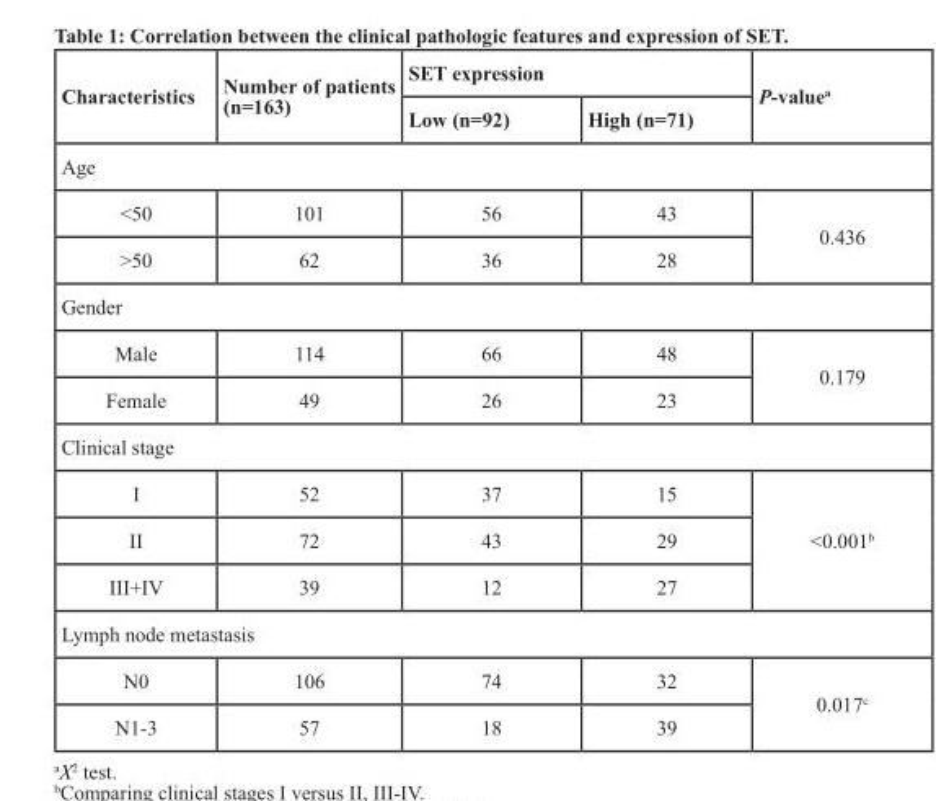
<table><thead><tr><td rowspan="2">Characteristics</td><td rowspan="2">Number of patients (n=163)</td><td colspan="2">SET expression</td><td rowspan="2">P-value<sup>a</sup></td></tr><tr><td>Low (n=92)</td><td>High (n=71)</td></tr></thead><tbody><tr><td colspan="5">Age</td></tr><tr><td>&lt;50</td><td>101</td><td>56</td><td>43</td><td rowspan="2">0.436</td></tr><tr><td>&gt;50</td><td>62</td><td>36</td><td>28</td></tr><tr><td colspan="5">Gender</td></tr><tr><td>Male</td><td>114</td><td>66</td><td>48</td><td rowspan="2">0.179</td></tr><tr><td>Female</td><td>49</td><td>26</td><td>23</td></tr><tr><td colspan="5">Clinical stage</td></tr><tr><td>I</td><td>52</td><td>37</td><td>15</td><td rowspan="3">&lt;0.001<sup>b</sup></td></tr><tr><td>II</td><td>72</td><td>43</td><td>29</td></tr><tr><td>III+IV</td><td>39</td><td>12</td><td>27</td></tr><tr><td colspan="5">Lymph node metastasis</td></tr><tr><td>N0</td><td>106</td><td>74</td><td>32</td><td rowspan="2">0.017<sup>c</sup></td></tr><tr><td>N1-3</td><td>57</td><td>18</td><td>39</td></tr></tbody></table>